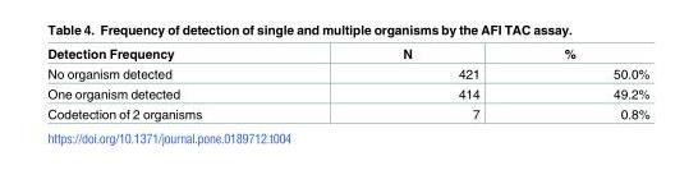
<table><thead><tr><td>Detection Frequency</td><td>N</td><td>%</td></tr></thead><tbody><tr><td>No organism detected</td><td>421</td><td>50.0%</td></tr><tr><td>One organism detected</td><td>414</td><td>49.2%</td></tr><tr><td>Codetection of 2 organisms</td><td>7</td><td>0.8%</td></tr></tbody></table>